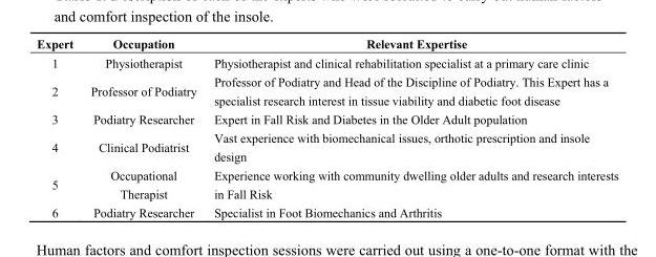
<table><thead><tr><td>Expert</td><td>Occupation</td><td>Relevant Expertise</td></tr></thead><tbody><tr><td>1</td><td>Physiotherapist</td><td>Physiotherapist and clinical rehabilitation specialist at a primary care clinic</td></tr><tr><td>2</td><td>Professor of Podiatry</td><td>Professor of Podiatry and Head of the Discipline of Podiatry. This Expert has a specialist research interest in tissue viability and diabetic foot disease</td></tr><tr><td>3</td><td>Podiatry Researcher</td><td>Expert in Fall Risk and Diabetes in the Older Adult population</td></tr><tr><td>4</td><td>Clinical Podiatrist</td><td>Vast experience with biomechanical issues, orthotic prescription and insole design</td></tr><tr><td>5</td><td>Occupational Therapist</td><td>Experience working with community dwelling older adults and research interests in Fall Risk</td></tr><tr><td>6</td><td>Podiatry Researcher</td><td>Specialist in Foot Biomechanics and Arthritis</td></tr></tbody></table>